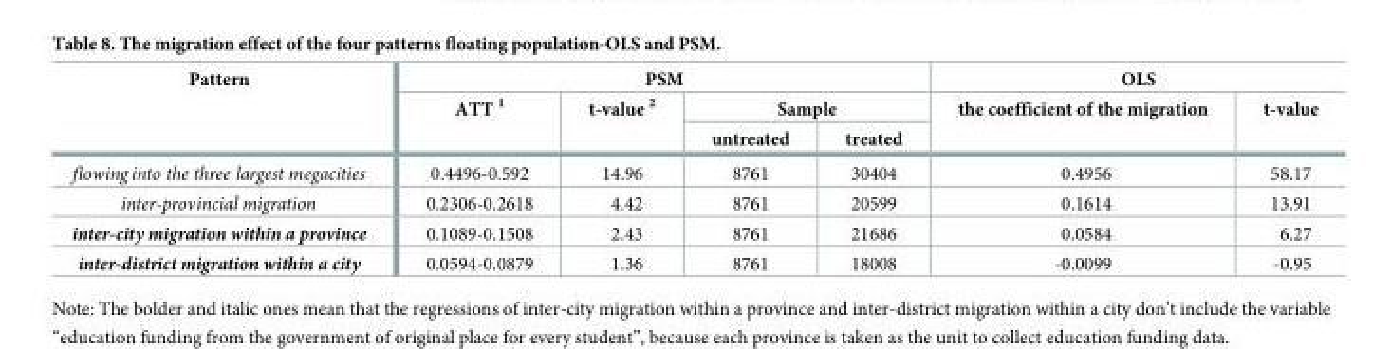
<table><thead><tr><td rowspan="3">Pattern</td><td colspan="4">PSM</td><td colspan="2">OLS</td></tr><tr><td rowspan="2">ATT <sup>1</sup></td><td rowspan="2">t-value <sup>2</sup></td><td colspan="2">Sample</td><td rowspan="2">the coefficient of the migration</td><td rowspan="2">t-value</td></tr><tr><td>untreated</td><td>treated</td></tr></thead><tbody><tr><td>flowing into the three largest megacities</td><td>0.4496-0.592</td><td>14.96</td><td>8761</td><td>30404</td><td>0.4956</td><td>58.17</td></tr><tr><td>inter-provincial migration</td><td>0.2306-0.2618</td><td>4.42</td><td>8761</td><td>20599</td><td>0.1614</td><td>13.91</td></tr><tr><td>inter-city migration within a province</td><td>0.1089-0.1508</td><td>2.43</td><td>8761</td><td>21686</td><td>0.0584</td><td>6.27</td></tr><tr><td>inter-district migration within a city</td><td>0.0594-0.0879</td><td>1.36</td><td>8761</td><td>18008</td><td>-0.0099</td><td>-0.95</td></tr></tbody></table>